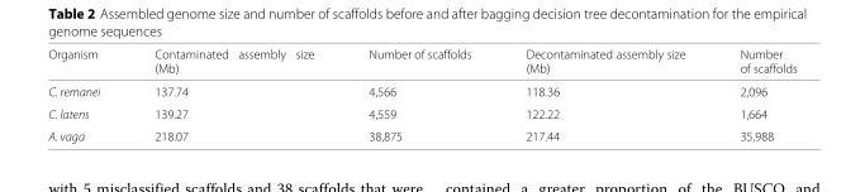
<table><thead><tr><td>Organism</td><td>Contaminated assembly size (Mb)</td><td>Number of scaffolds</td><td>Decontaminated assembly size (Mb)</td><td>Number of scaffolds</td></tr></thead><tbody><tr><td>C. remanei</td><td>137.74</td><td>4,566</td><td>118.36</td><td>2,096</td></tr><tr><td>C. latens</td><td>139.27</td><td>4,559</td><td>122.22</td><td>1,664</td></tr><tr><td>A. vaga</td><td>218.07</td><td>38,875</td><td>217.44</td><td>35,988</td></tr></tbody></table>